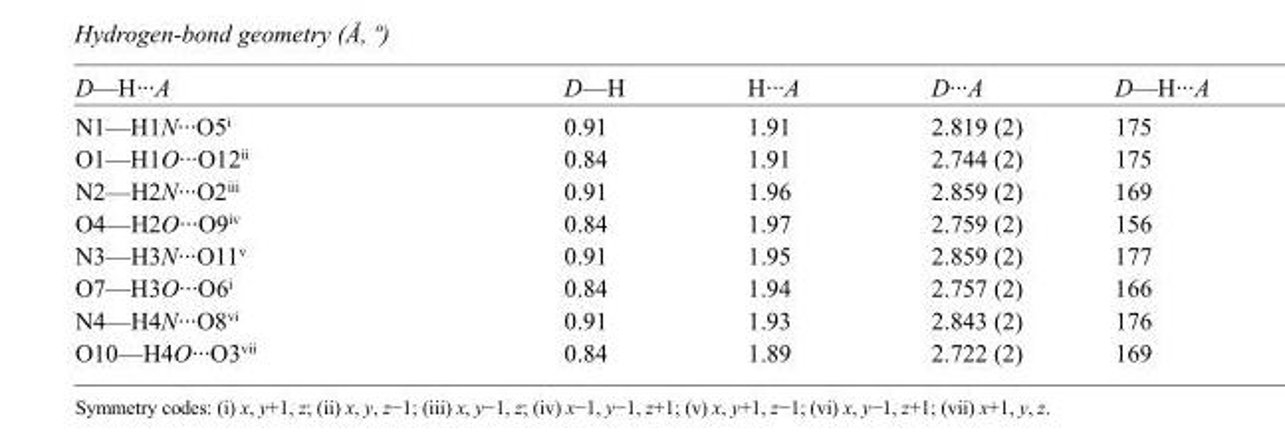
<table><tbody><tr><td>D—H···A</td><td>D—H</td><td>H···A</td><td>D···A</td><td>D—H···A</td></tr><tr><td>N1—H1N···O5<sup>i</sup></td><td>0.91</td><td>1.91</td><td>2.819 (2)</td><td>175</td></tr><tr><td>O1—H1O···O12<sup>ii</sup></td><td>0.84</td><td>1.91</td><td>2.744 (2)</td><td>175</td></tr><tr><td>N2—H2N···O2<sup>iii</sup></td><td>0.91</td><td>1.96</td><td>2.859 (2)</td><td>169</td></tr><tr><td>O4—H2O···O9<sup>iv</sup></td><td>0.84</td><td>1.97</td><td>2.759 (2)</td><td>156</td></tr><tr><td>N3—H3N···O11<sup>v</sup></td><td>0.91</td><td>1.95</td><td>2.859 (2)</td><td>177</td></tr><tr><td>O7—H3O···O6<sup>i</sup></td><td>0.84</td><td>1.94</td><td>2.757 (2)</td><td>166</td></tr><tr><td>N4—H4N···O8<sup>vi</sup></td><td>0.91</td><td>1.93</td><td>2.843 (2)</td><td>176</td></tr><tr><td>O10—H4O···O3<sup>vii</sup></td><td>0.84</td><td>1.89</td><td>2.722 (2)</td><td>169</td></tr></tbody></table>